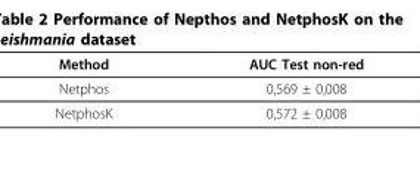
<table><thead><tr><td>Method</td><td>AUC Test non-red</td></tr></thead><tbody><tr><td>Netphos</td><td>0,569 ± 0,008</td></tr><tr><td>NetphosK</td><td>0,572 ± 0,008</td></tr></tbody></table>